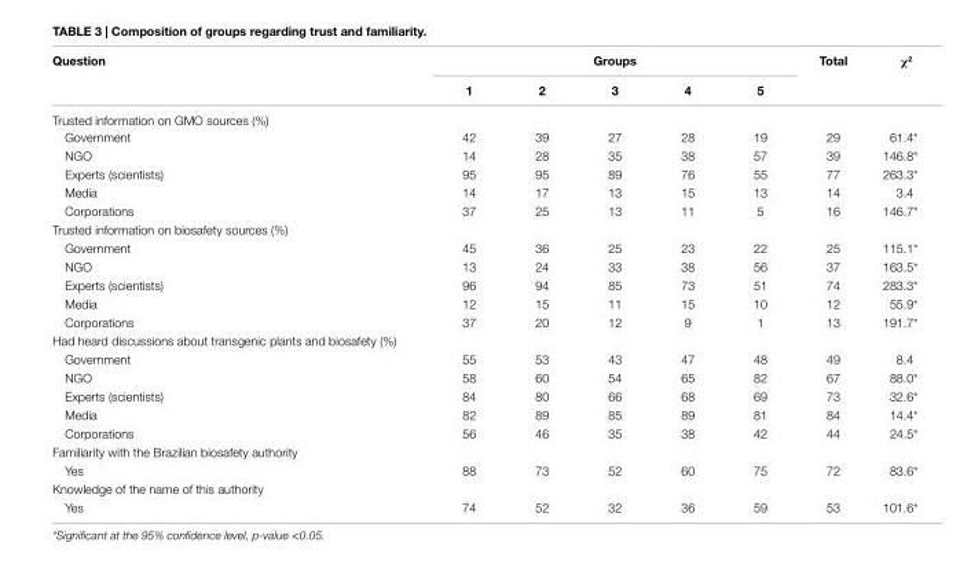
<table><thead><tr><td rowspan="2">Question</td><td colspan="5">groups</td><td rowspan="2">Total</td><td rowspan="2">χ<sup>2</sup></td></tr><tr><td>1</td><td>2</td><td>3</td><td>4</td><td>5</td></tr></thead><tbody><tr><td colspan="8">Trusted information on GMO sources (%)</td></tr><tr><td>Government</td><td>42</td><td>39</td><td>27</td><td>28</td><td>19</td><td>29</td><td>61.4*</td></tr><tr><td>NGO</td><td>14</td><td>28</td><td>35</td><td>38</td><td>57</td><td>39</td><td>146.8*</td></tr><tr><td>Experts (scientists)</td><td>95</td><td>95</td><td>89</td><td>76</td><td>55</td><td>77</td><td>263.3*</td></tr><tr><td>Media</td><td>14</td><td>17</td><td>13</td><td>15</td><td>13</td><td>14</td><td>3.4</td></tr><tr><td>Corporations</td><td>37</td><td>25</td><td>13</td><td>11</td><td>5</td><td>16</td><td>146.7*</td></tr><tr><td colspan="8">Trusted information on biosafety sources (%)</td></tr><tr><td>Government</td><td>45</td><td>36</td><td>25</td><td>23</td><td>22</td><td>25</td><td>115.1*</td></tr><tr><td>NGO</td><td>13</td><td>24</td><td>33</td><td>38</td><td>56</td><td>37</td><td>163.5*</td></tr><tr><td>Experts (scientists)</td><td>96</td><td>94</td><td>85</td><td>73</td><td>51</td><td>74</td><td>283.3*</td></tr><tr><td>Media</td><td>12</td><td>15</td><td>11</td><td>15</td><td>10</td><td>12</td><td>55.9*</td></tr><tr><td>Corporations</td><td>37</td><td>20</td><td>12</td><td>9</td><td>1</td><td>13</td><td>191.7*</td></tr><tr><td colspan="8">Had heard discussions about transgenic plants and biosafety (%)</td></tr><tr><td>Government</td><td>55</td><td>53</td><td>43</td><td>47</td><td>48</td><td>49</td><td>8.4</td></tr><tr><td>NGO</td><td>58</td><td>60</td><td>54</td><td>65</td><td>82</td><td>67</td><td>88.0*</td></tr><tr><td>Experts (scientists)</td><td>84</td><td>80</td><td>66</td><td>68</td><td>69</td><td>73</td><td>32.6*</td></tr><tr><td>Media</td><td>82</td><td>89</td><td>85</td><td>89</td><td>81</td><td>84</td><td>14.4*</td></tr><tr><td>Corporations</td><td>56</td><td>46</td><td>35</td><td>38</td><td>42</td><td>44</td><td>24.5*</td></tr><tr><td colspan="8">Familiarity with the Brazilian biosafety authority</td></tr><tr><td>Yes</td><td>88</td><td>73</td><td>52</td><td>60</td><td>75</td><td>72</td><td>83.6*</td></tr><tr><td colspan="8">Knowledge of the name of this authority</td></tr><tr><td>Yes</td><td>74</td><td>52</td><td>32</td><td>36</td><td>59</td><td>53</td><td>101.6*</td></tr></tbody></table>